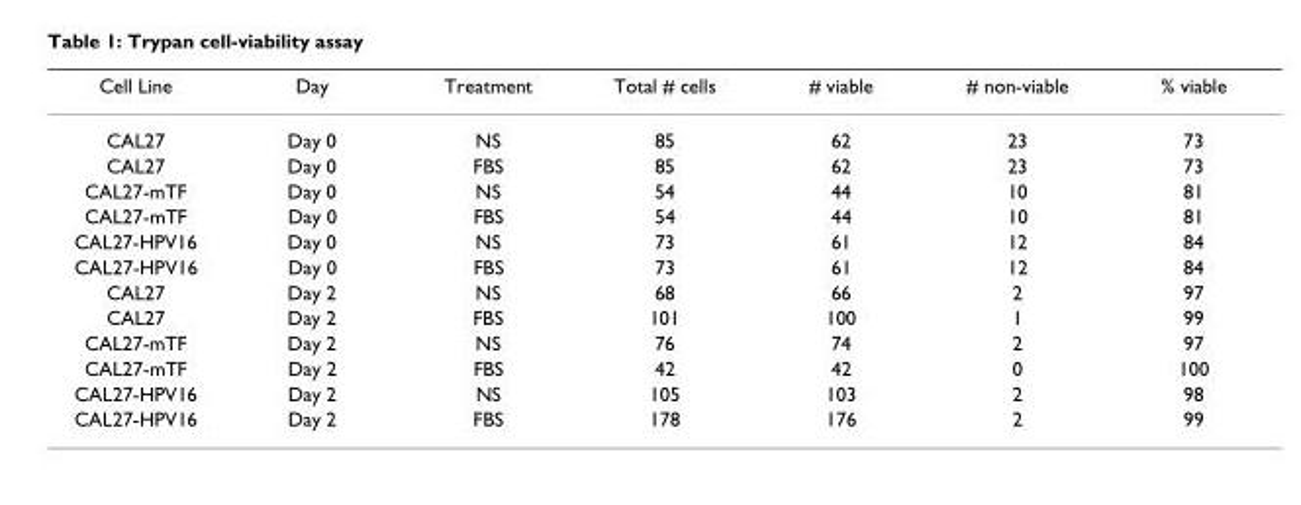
<table><thead><tr><td>Cell Line</td><td>Day</td><td>Treatment</td><td>Total # cells</td><td># viable</td><td># non-viable</td><td>% viable</td></tr></thead><tbody><tr><td>CAL27</td><td>Day 0</td><td>NS</td><td>85</td><td>62</td><td>23</td><td>73</td></tr><tr><td>CAL27</td><td>Day 0</td><td>FBS</td><td>85</td><td>62</td><td>23</td><td>73</td></tr><tr><td>CAL27-mTF</td><td>Day 0</td><td>NS</td><td>54</td><td>44</td><td>10</td><td>81</td></tr><tr><td>CAL27-mTF</td><td>Day 0</td><td>FBS</td><td>54</td><td>44</td><td>10</td><td>81</td></tr><tr><td>CAL27-HPV16</td><td>Day 0</td><td>NS</td><td>73</td><td>61</td><td>12</td><td>84</td></tr><tr><td>CAL27-HPV16</td><td>Day 0</td><td>FBS</td><td>73</td><td>61</td><td>12</td><td>84</td></tr><tr><td>CAL27</td><td>Day 2</td><td>NS</td><td>68</td><td>66</td><td>2</td><td>97</td></tr><tr><td>CAL27</td><td>Day 2</td><td>FBS</td><td>101</td><td>100</td><td>1</td><td>99</td></tr><tr><td>CAL27-mTF</td><td>Day 2</td><td>NS</td><td>76</td><td>74</td><td>2</td><td>97</td></tr><tr><td>CAL27-mTF</td><td>Day 2</td><td>FBS</td><td>42</td><td>42</td><td>0</td><td>100</td></tr><tr><td>CAL27-HPV16</td><td>Day 2</td><td>NS</td><td>105</td><td>103</td><td>2</td><td>98</td></tr><tr><td>CAL27-HPV16</td><td>Day 2</td><td>FBS</td><td>178</td><td>176</td><td>2</td><td>99</td></tr></tbody></table>